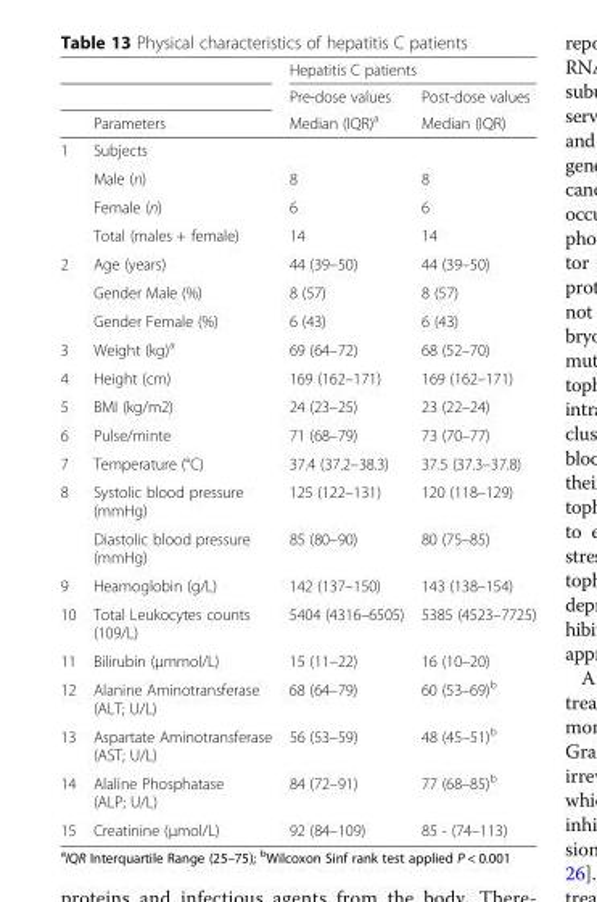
<table><thead><tr><td rowspan="3"></td><td rowspan="3">Parameters</td><td colspan="2">Hepatitis C patients</td></tr><tr><td rowspan="2">Pre-dose values Median (IQR)<sup>a</sup></td><td rowspan="2">Post-dose values Median (IQR)</td></tr><tr></tr></thead><tbody><tr><td rowspan="4">1</td><td colspan="3">Subjects</td></tr><tr><td>Male (n)</td><td>8</td><td>8</td></tr><tr><td>Female (n)</td><td>6</td><td>6</td></tr><tr><td>Total (males + female)</td><td>14</td><td>14</td></tr><tr><td rowspan="3">2</td><td>Age (years)</td><td>44 (39–50)</td><td>44 (39–50)</td></tr><tr><td>Gender Male (%)</td><td>8 (57)</td><td>8 (57)</td></tr><tr><td>Gender Female (%)</td><td>6 (43)</td><td>6 (43)</td></tr><tr><td>3</td><td>Weight (kg)<sup>a</sup></td><td>69 (64–72)</td><td>68 (52–70)</td></tr><tr><td>4</td><td>Height (cm)</td><td>169 (162–171)</td><td>169 (162–171)</td></tr><tr><td>5</td><td>BMI (kg/m2)</td><td>24 (23–25)</td><td>23 (22–24)</td></tr><tr><td>6</td><td>Pulse/minte</td><td>71 (68–79)</td><td>73 (70–77)</td></tr><tr><td>7</td><td>Temperature (°C)</td><td>37.4 (37.2–38.3)</td><td>37.5 (37.3–37.8)</td></tr><tr><td rowspan="2">8</td><td>Systolic blood pressure (mmHg)</td><td>125 (122–131)</td><td>120 (118–129)</td></tr><tr><td>Diastolic blood pressure (mmHg)</td><td>85 (80–90)</td><td>80 (75–85)</td></tr><tr><td>9</td><td>Heamoglobin (g/L)</td><td>142 (137–150)</td><td>143 (138–154)</td></tr><tr><td>10</td><td>Total Leukocytes counts (109/L)</td><td>5404 (4316–6505)</td><td>5385 (4523–7725)</td></tr><tr><td>11</td><td>Bilirubin (μmmol/L)</td><td>15 (11–22)</td><td>16 (10–20)</td></tr><tr><td>12</td><td>Alanine Aminotransferase (ALT; U/L)</td><td>68 (64–79)</td><td>60 (53–69)<sup>b</sup></td></tr><tr><td>13</td><td>Aspartate Aminotransferase (AST; U/L)</td><td>56 (53–59)</td><td>48 (45–51)<sup>b</sup></td></tr><tr><td>14</td><td>Alaline Phosphatase (ALP; U/L)</td><td>84 (72–91)</td><td>77 (68–85)<sup>b</sup></td></tr><tr><td>15</td><td>Creatinine (μmol/L)</td><td>92 (84–109)</td><td>85 - (74–113)</td></tr></tbody></table>